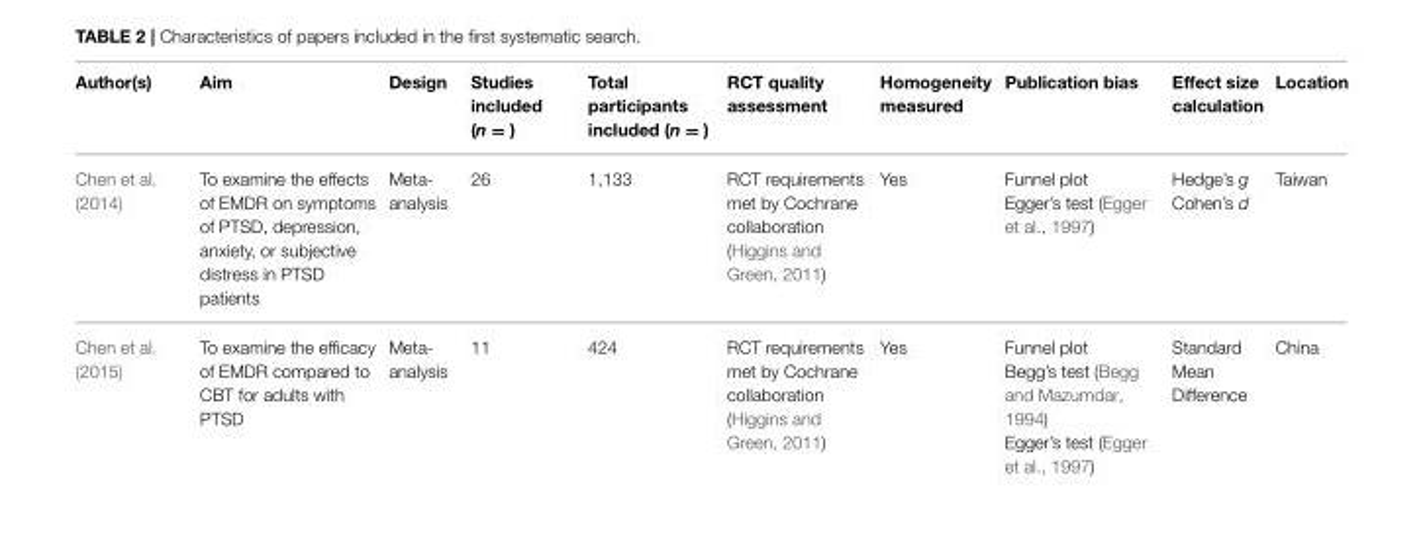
<table><thead><tr><td>Author(s)</td><td>Aim</td><td>Design</td><td>Studies included (n = )</td><td>Total participants included (n = )</td><td>RCT quality assessment</td><td>Homogeneity measured</td><td>Publication bias</td><td>Effect size calculation</td><td>Location</td></tr></thead><tbody><tr><td>Chen et al. (2014)</td><td>To examine the effects of EMDR on symptoms of PTSD, depression, anxiety, or subjective distress in PTSD patients</td><td>Meta- analysis</td><td>26</td><td>1,133</td><td>RCT requirements met by Cochrane collaboration (Higgins and Green, 2011)</td><td>Yes</td><td>Funnel plot Egger’s test (Egger et al., 1997)</td><td>Hedge’s g Cohen’s d</td><td>Taiwan</td></tr><tr><td>Chen et al. (2015)</td><td>To examine the efficacy of EMDR compared to CBT for adults with PTSD</td><td>Meta- analysis</td><td>11</td><td>424</td><td>RCT requirements met by Cochrane collaboration (Higgins and Green, 2011)</td><td>Yes</td><td>Funnel plot Begg’s test (Begg and Mazumdar, 1994) Egger’s test (Egger et al., 1997)</td><td>Standard Mean Difference</td><td>China</td></tr></tbody></table>